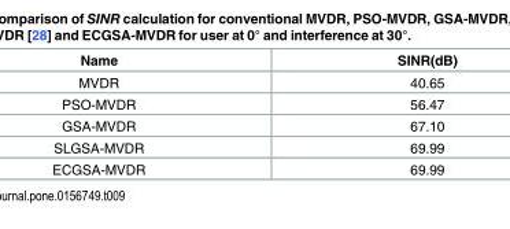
<table><thead><tr><td>Name</td><td>SINR(dB)</td></tr></thead><tbody><tr><td>MVDR</td><td>40.65</td></tr><tr><td>PSO-MVDR</td><td>56.47</td></tr><tr><td>GSA-MVDR</td><td>67.10</td></tr><tr><td>SLGSA-MVDR</td><td>69.99</td></tr><tr><td>ECGSA-MVDR</td><td>69.99</td></tr></tbody></table>